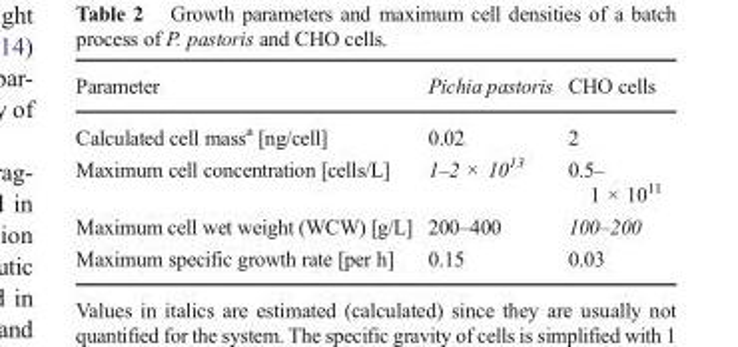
<table><thead><tr><td>Parameter</td><td>Pichia pastoris</td><td>CHO cells</td></tr></thead><tbody><tr><td>Calculated cell mass<sup>a</sup> [ng/cell]</td><td>0.02</td><td>2</td></tr><tr><td>Maximum cell concentration [cells/L]</td><td>1–2 × 10<sup>13</sup></td><td>0.5– 1 × 10<sup>11</sup></td></tr><tr><td>Maximum cell wet weight (WCW) [g/L]</td><td>200–400</td><td>100–200</td></tr><tr><td>Maximum specific growth rate [per h]</td><td>0.15</td><td>0.03</td></tr></tbody></table>